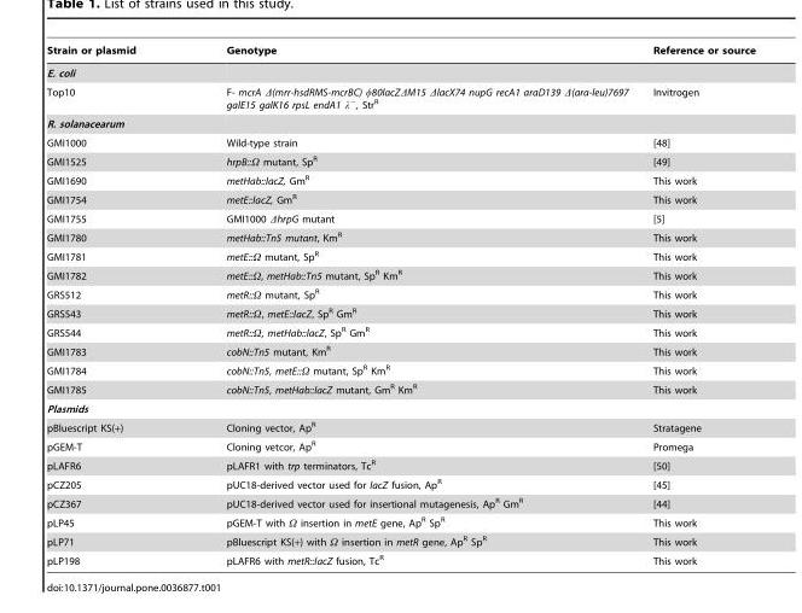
<table><thead><tr><td>Strain or plasmid</td><td>Genotype</td><td>Reference or source</td></tr></thead><tbody><tr><td colspan="3">E. coli</td></tr><tr><td>Top10</td><td>F- mcrA Δ(mrr-hsdRMS-mcrBC) φ80lacZΔM15 ΔlacX74 nupG recA1 araD139 Δ(ara-leu)7697 galE15 galK16 rpsL endA1 λ<sup>−</sup>, Str<sup>R</sup></td><td>Invitrogen</td></tr><tr><td colspan="3">R. solanacearum</td></tr><tr><td>GMI1000</td><td>Wild-type strain</td><td>[48]</td></tr><tr><td>GMI1525</td><td>hrpB::Ω mutant, Sp<sup>R</sup></td><td>[49]</td></tr><tr><td>GMI1690</td><td>metHab::lacZ, Gm<sup>R</sup></td><td>This work</td></tr><tr><td>GMI1754</td><td>metE::lacZ, Gm<sup>R</sup></td><td>This work</td></tr><tr><td>GMI1755</td><td>GMI1000 ΔhrpG mutant</td><td>[5]</td></tr><tr><td>GMI1780</td><td>metHab::Tn5 mutant, Km<sup>R</sup></td><td>This work</td></tr><tr><td>GMI1781</td><td>metE::Ω mutant, Sp<sup>R</sup></td><td>This work</td></tr><tr><td>GMI1782</td><td>metE::Ω, metHab::Tn5 mutant, Sp<sup>R</sup> Km<sup>R</sup></td><td>This work</td></tr><tr><td>GRS512</td><td>metR::Ω mutant, Sp<sup>R</sup></td><td>This work</td></tr><tr><td>GRS543</td><td>metR::Ω, metE::lacZ, Sp<sup>R</sup> Gm<sup>R</sup></td><td>This work</td></tr><tr><td>GRS544</td><td>metR::Ω, metHab::lacZ, Sp<sup>R</sup> Gm<sup>R</sup></td><td>This work</td></tr><tr><td>GMI1783</td><td>cobN::Tn5 mutant, Km<sup>R</sup></td><td>This work</td></tr><tr><td>GMI1784</td><td>cobN::Tn5, metE::Ω mutant, Sp<sup>R</sup> Km<sup>R</sup></td><td>This work</td></tr><tr><td>GMI1785</td><td>cobN::Tn5, metHab::lacZ mutant, Gm<sup>R</sup> Km<sup>R</sup></td><td>This work</td></tr><tr><td colspan="3">Plasmids</td></tr><tr><td>pBluescript KS(+)</td><td>Cloning vector, Ap<sup>R</sup></td><td>Stratagene</td></tr><tr><td>pGEM-T</td><td>Cloning vetcor, Ap<sup>R</sup></td><td>Promega</td></tr><tr><td>pLAFR6</td><td>pLAFR1 with trp terminators, Tc<sup>R</sup></td><td>[50]</td></tr><tr><td>pCZ205</td><td>pUC18-derived vector used for lacZ fusion, Ap<sup>R</sup></td><td>[45]</td></tr><tr><td>pCZ367</td><td>pUC18-derived vector used for insertional mutagenesis, Ap<sup>R</sup> Gm<sup>R</sup></td><td>[44]</td></tr><tr><td>pLP45</td><td>pGEM-T with Ω insertion in metE gene, Ap<sup>R</sup> Sp<sup>R</sup></td><td>This work</td></tr><tr><td>pLP71</td><td>pBluescript KS(+) with Ω insertion in metR gene, Ap<sup>R</sup> Sp<sup>R</sup></td><td>This work</td></tr><tr><td>pLP198</td><td>pLAFR6 with metR::lacZ fusion, Tc<sup>R</sup></td><td>This work</td></tr></tbody></table>